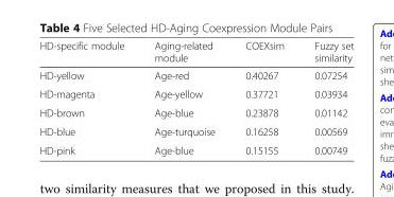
<table><thead><tr><td>HD-specific module</td><td>Aging-related module</td><td>COEXsim</td><td>Fuzzy set similarity</td></tr></thead><tbody><tr><td>HD-yellow</td><td>Age-red</td><td>0.40267</td><td>0.07254</td></tr><tr><td>HD-magenta</td><td>Age-yellow</td><td>0.37721</td><td>0.03934</td></tr><tr><td>HD-brown</td><td>Age-blue</td><td>0.23878</td><td>0.01142</td></tr><tr><td>HD-blue</td><td>Age-turquoise</td><td>0.16258</td><td>0.00569</td></tr><tr><td>HD-pink</td><td>Age-blue</td><td>0.15155</td><td>0.00749</td></tr></tbody></table>